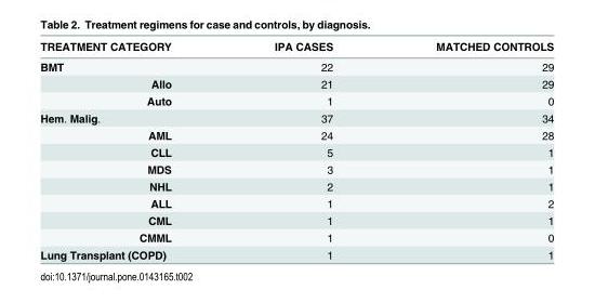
<table><thead><tr><td>TREATMENT CATEGORY</td><td>IPA CASES</td><td>MATCHED CONTROLS</td></tr></thead><tbody><tr><td>BMT</td><td>22</td><td>29</td></tr><tr><td>Allo</td><td>21</td><td>29</td></tr><tr><td>Auto</td><td>1</td><td>0</td></tr><tr><td>Hem. Malig.</td><td>37</td><td>34</td></tr><tr><td>AML</td><td>24</td><td>28</td></tr><tr><td>CLL</td><td>5</td><td>1</td></tr><tr><td>MDS</td><td>3</td><td>1</td></tr><tr><td>NHL</td><td>2</td><td>1</td></tr><tr><td>ALL</td><td>1</td><td>2</td></tr><tr><td>CML</td><td>1</td><td>1</td></tr><tr><td>CMML</td><td>1</td><td>0</td></tr><tr><td>Lung Transplant (COPD)</td><td>1</td><td>1</td></tr></tbody></table>